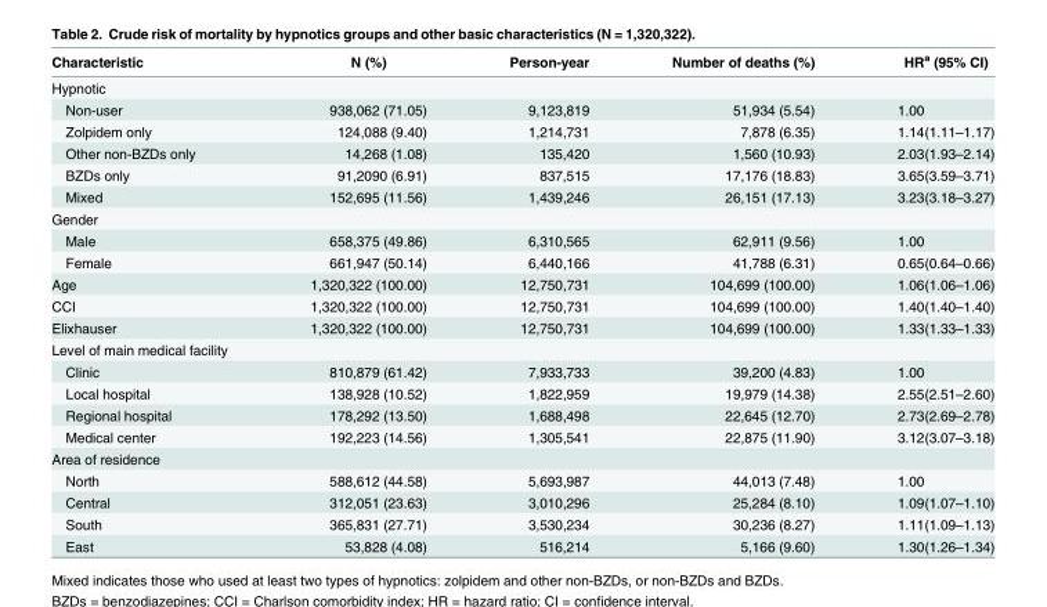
<table><thead><tr><td>Characteristic</td><td>N (%)</td><td>Person-year</td><td>Number of deaths (%)</td><td>HR<sup>a</sup> (95% CI)</td></tr></thead><tbody><tr><td colspan="5">Hypnotic</td></tr><tr><td>Non-user</td><td>938,062 (71.05)</td><td>9,123,819</td><td>51,934 (5.54)</td><td>1.00</td></tr><tr><td>Zolpidem only</td><td>124,088 (9.40)</td><td>1,214,731</td><td>7,878 (6.35)</td><td>1.14(1.11–1.17)</td></tr><tr><td>Other non-BZDs only</td><td>14,268 (1.08)</td><td>135,420</td><td>1,560 (10.93)</td><td>2.03(1.93–2.14)</td></tr><tr><td>BZDs only</td><td>91,2090 (6.91)</td><td>837,515</td><td>17,176 (18.83)</td><td>3.65(3.59–3.71)</td></tr><tr><td>Mixed</td><td>152,695 (11.56)</td><td>1,439,246</td><td>26,151 (17.13)</td><td>3.23(3.18–3.27)</td></tr><tr><td colspan="5">Gender</td></tr><tr><td>Male</td><td>658,375 (49.86)</td><td>6,310,565</td><td>62,911 (9.56)</td><td>1.00</td></tr><tr><td>Female</td><td>661,947 (50.14)</td><td>6,440,166</td><td>41,788 (6.31)</td><td>0.65(0.64–0.66)</td></tr><tr><td>Age</td><td>1,320,322 (100.00)</td><td>12,750,731</td><td>104,699 (100.00)</td><td>1.06(1.06–1.06)</td></tr><tr><td>CCI</td><td>1,320,322 (100.00)</td><td>12,750,731</td><td>104,699 (100.00)</td><td>1.40(1.40–1.40)</td></tr><tr><td>Elixhauser</td><td>1,320,322 (100.00)</td><td>12,750,731</td><td>104,699 (100.00)</td><td>1.33(1.33–1.33)</td></tr><tr><td colspan="5">Level of main medical facility</td></tr><tr><td>Clinic</td><td>810,879 (61.42)</td><td>7,933,733</td><td>39,200 (4.83)</td><td>1.00</td></tr><tr><td>Local hospital</td><td>138,928 (10.52)</td><td>1,822,959</td><td>19,979 (14.38)</td><td>2.55(2.51–2.60)</td></tr><tr><td>Regional hospital</td><td>178,292 (13.50)</td><td>1,688,498</td><td>22,645 (12.70)</td><td>2.73(2.69–2.78)</td></tr><tr><td>Medical center</td><td>192,223 (14.56)</td><td>1,305,541</td><td>22,875 (11.90)</td><td>3.12(3.07–3.18)</td></tr><tr><td colspan="5">Area of residence</td></tr><tr><td>North</td><td>588,612 (44.58)</td><td>5,693,987</td><td>44,013 (7.48)</td><td>1.00</td></tr><tr><td>Central</td><td>312,051 (23.63)</td><td>3,010,296</td><td>25,284 (8.10)</td><td>1.09(1.07–1.10)</td></tr><tr><td>South</td><td>365,831 (27.71)</td><td>3,530,234</td><td>30,236 (8.27)</td><td>1.11(1.09–1.13)</td></tr><tr><td>East</td><td>53,828 (4.08)</td><td>516,214</td><td>5,166 (9.60)</td><td>1.30(1.26–1.34)</td></tr></tbody></table>